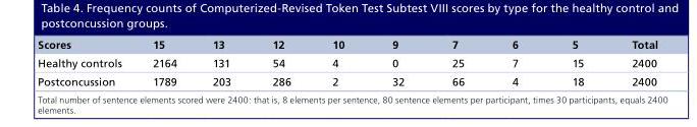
<table><thead><tr><td>Scores</td><td>15</td><td>13</td><td>12</td><td>10</td><td>9</td><td>7</td><td>6</td><td>5</td><td>Total</td></tr></thead><tbody><tr><td>Healthy controls</td><td>2164</td><td>131</td><td>54</td><td>4</td><td>0</td><td>25</td><td>7</td><td>15</td><td>2400</td></tr><tr><td>Postconcussion</td><td>1789</td><td>203</td><td>286</td><td>2</td><td>32</td><td>66</td><td>4</td><td>18</td><td>2400</td></tr></tbody></table>